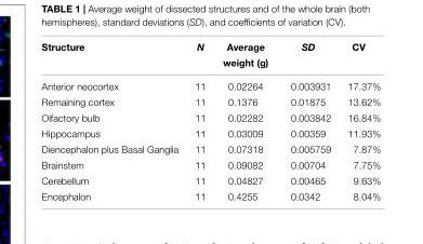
<table><thead><tr><td rowspan="2">Structure</td><td rowspan="2">N</td><td rowspan="2">Average weight (g)</td><td rowspan="2">SD</td><td rowspan="2">CV</td></tr><tr></tr></thead><tbody><tr><td>Anterior neocortex</td><td>11</td><td>0.02264</td><td>0.003931</td><td>17.37%</td></tr><tr><td>Remaining cortex</td><td>11</td><td>0.1376</td><td>0.01875</td><td>13.62%</td></tr><tr><td>Olfactory bulb</td><td>11</td><td>0.02282</td><td>0.003842</td><td>16.84%</td></tr><tr><td>Hippocampus</td><td>11</td><td>0.03009</td><td>0.00359</td><td>11.93%</td></tr><tr><td>Diencephalon plus Basal Ganglia</td><td>11</td><td>0.07318</td><td>0.005759</td><td>7.87%</td></tr><tr><td>Brainstem</td><td>11</td><td>0.09082</td><td>0.00704</td><td>7.75%</td></tr><tr><td>Cerebellum</td><td>11</td><td>0.04827</td><td>0.00465</td><td>9.63%</td></tr><tr><td>Encephalon</td><td>11</td><td>0.4255</td><td>0.0342</td><td>8.04%</td></tr></tbody></table>